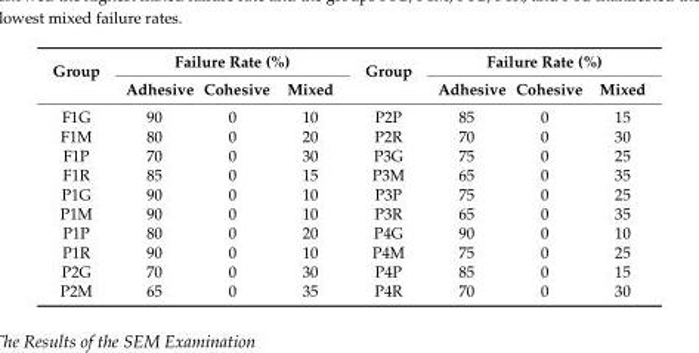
<table><thead><tr><td rowspan="2">Group</td><td colspan="3">Failure Rate (%)</td><td rowspan="2">Group</td><td colspan="3">Failure Rate (%)</td></tr><tr><td>Adhesive</td><td>Cohesive</td><td>Mixed</td><td>Adhesive</td><td>Cohesive</td><td>Mixed</td></tr></thead><tbody><tr><td>F1G</td><td>90</td><td>0</td><td>10</td><td>P2P</td><td>85</td><td>0</td><td>15</td></tr><tr><td>F1M</td><td>80</td><td>0</td><td>20</td><td>P2R</td><td>70</td><td>0</td><td>30</td></tr><tr><td>F1P</td><td>70</td><td>0</td><td>30</td><td>P3G</td><td>75</td><td>0</td><td>25</td></tr><tr><td>F1R</td><td>85</td><td>0</td><td>15</td><td>P3M</td><td>65</td><td>0</td><td>35</td></tr><tr><td>P1G</td><td>90</td><td>0</td><td>10</td><td>P3P</td><td>75</td><td>0</td><td>25</td></tr><tr><td>P1M</td><td>90</td><td>0</td><td>10</td><td>P3R</td><td>65</td><td>0</td><td>35</td></tr><tr><td>P1P</td><td>80</td><td>0</td><td>20</td><td>P4G</td><td>90</td><td>0</td><td>10</td></tr><tr><td>P1R</td><td>90</td><td>0</td><td>10</td><td>P4M</td><td>75</td><td>0</td><td>25</td></tr><tr><td>P2G</td><td>70</td><td>0</td><td>30</td><td>P4P</td><td>85</td><td>0</td><td>15</td></tr><tr><td>P2M</td><td>65</td><td>0</td><td>35</td><td>P4R</td><td>70</td><td>0</td><td>30</td></tr></tbody></table>